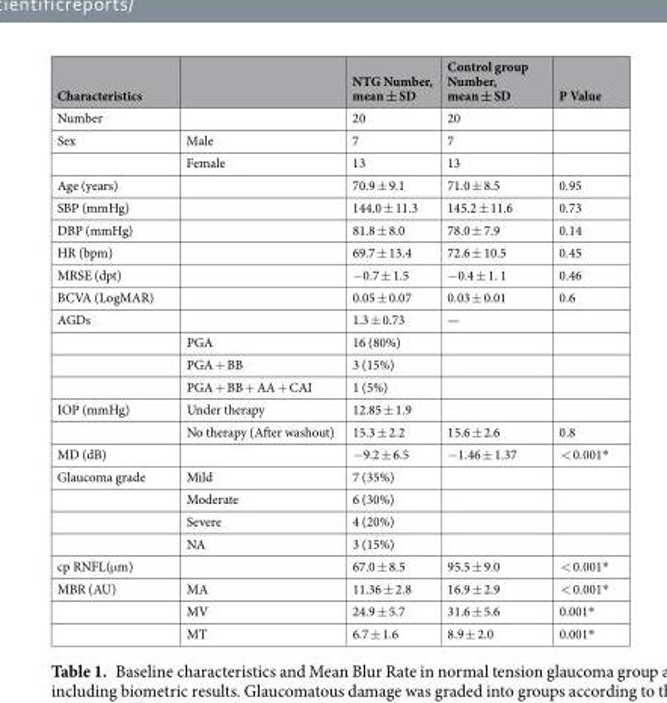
<table><thead><tr><td>Characteristics</td><td></td><td>NTG Number, mean ± SD</td><td>Control group Number, mean ± SD</td><td>P Value</td></tr></thead><tbody><tr><td>Number</td><td></td><td>20</td><td>20</td><td></td></tr><tr><td rowspan="2">Sex</td><td>Male</td><td>7</td><td>7</td><td></td></tr><tr><td>Female</td><td>13</td><td>13</td><td></td></tr><tr><td>Age (years)</td><td></td><td>70.9 ± 9.1</td><td>71.0 ± 8.5</td><td>0.95</td></tr><tr><td>SBP (mmHg)</td><td></td><td>144.0 ± 11.3</td><td>145.2 ± 11.6</td><td>0.73</td></tr><tr><td>DBP (mmHg)</td><td></td><td>81.8 ± 8.0</td><td>78.0 ± 7.9</td><td>0.14</td></tr><tr><td>HR (bpm)</td><td></td><td>69.7 ± 13.4</td><td>72.6 ± 10.5</td><td>0.45</td></tr><tr><td>MRSE (dpt)</td><td></td><td>−0.7 ± 1.5</td><td>−0.4 ± 1. 1</td><td>0.46</td></tr><tr><td>BCVA (LogMAR)</td><td></td><td>0.05 ± 0.07</td><td>0.03 ± 0.01</td><td>0.6</td></tr><tr><td rowspan="4">AGDs</td><td></td><td>1.3 ± 0.73</td><td>—</td><td></td></tr><tr><td>PGA</td><td>16 (80%)</td><td></td><td></td></tr><tr><td>PGA + BB</td><td>3 (15%)</td><td></td><td></td></tr><tr><td>PGA + BB + AA + CAI</td><td>1 (5%)</td><td></td><td></td></tr><tr><td rowspan="2">IOP (mmHg)</td><td>Under therapy</td><td>12.85 ± 1.9</td><td></td><td></td></tr><tr><td>No therapy (After washout)</td><td>15.3 ± 2.2</td><td>15.6 ± 2.6</td><td>0.8</td></tr><tr><td>MD (dB)</td><td></td><td>−9.2 ± 6.5</td><td>−1.46 ± 1.37</td><td>&lt; 0.001*</td></tr><tr><td rowspan="4">Glaucoma grade</td><td>Mild</td><td>7 (35%)</td><td></td><td></td></tr><tr><td>Moderate</td><td>6 (30%)</td><td></td><td></td></tr><tr><td>Severe</td><td>4 (20%)</td><td></td><td></td></tr><tr><td>NA</td><td>3 (15%)</td><td></td><td></td></tr><tr><td>cp RNFL(μm)</td><td></td><td>67.0 ± 8.5</td><td>95.5 ± 9.0</td><td>&lt; 0.001*</td></tr><tr><td rowspan="3">MBR (AU)</td><td>MA</td><td>11.36 ± 2.8</td><td>16.9 ± 2.9</td><td>&lt; 0.001*</td></tr><tr><td>MV</td><td>24.9 ± 5.7</td><td>31.6 ± 5.6</td><td>0.001*</td></tr><tr><td>MT</td><td>6.7 ± 1.6</td><td>8.9 ± 2.0</td><td>0.001*</td></tr></tbody></table>